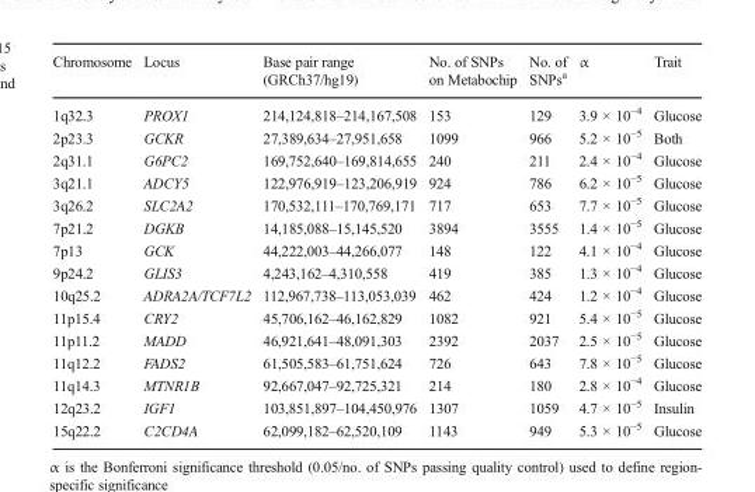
<table><thead><tr><td>Chromosome</td><td>Locus</td><td>Base pair range (GRCh37/hg19)</td><td>No. of SNPs on Metabochip</td><td>No. of SNPs<sup>a</sup></td><td>α</td><td>Trait</td></tr></thead><tbody><tr><td>1q32.3</td><td>PROX1</td><td>214,124,818–214,167,508</td><td>153</td><td>129</td><td>3.9 × 10<sup>−4</sup></td><td>Glucose</td></tr><tr><td>2p23.3</td><td>GCKR</td><td>27,389,634–27,951,658</td><td>1099</td><td>966</td><td>5.2 × 10<sup>−5</sup></td><td>Both</td></tr><tr><td>2q31.1</td><td>G6PC2</td><td>169,752,640–169,814,655</td><td>240</td><td>211</td><td>2.4 × 10<sup>−4</sup></td><td>Glucose</td></tr><tr><td>3q21.1</td><td>ADCY5</td><td>122,976,919–123,206,919</td><td>924</td><td>786</td><td>6.2 × 10<sup>−5</sup></td><td>Glucose</td></tr><tr><td>3q26.2</td><td>SLC2A2</td><td>170,532,111–170,769,171</td><td>717</td><td>653</td><td>7.7 × 10<sup>−5</sup></td><td>Glucose</td></tr><tr><td>7p21.2</td><td>DGKB</td><td>14,185,088–15,145,520</td><td>3894</td><td>3555</td><td>1.4 × 10<sup>−5</sup></td><td>Glucose</td></tr><tr><td>7p13</td><td>GCK</td><td>44,222,003–44,266,077</td><td>148</td><td>122</td><td>4.1 × 10<sup>−4</sup></td><td>Glucose</td></tr><tr><td>9p24.2</td><td>GLIS3</td><td>4,243,162–4,310,558</td><td>419</td><td>385</td><td>1.3 × 10<sup>−4</sup></td><td>Glucose</td></tr><tr><td>10q25.2</td><td>ADRA2A/TCF7L2</td><td>112,967,738–113,053,039</td><td>462</td><td>424</td><td>1.2 × 10<sup>−4</sup></td><td>Glucose</td></tr><tr><td>11p15.4</td><td>CRY2</td><td>45,706,162–46,162,829</td><td>1082</td><td>921</td><td>5.4 × 10<sup>−5</sup></td><td>Glucose</td></tr><tr><td>11p11.2</td><td>MADD</td><td>46,921,641–48,091,303</td><td>2392</td><td>2037</td><td>2.5 × 10<sup>−5</sup></td><td>Glucose</td></tr><tr><td>11q12.2</td><td>FADS2</td><td>61,505,583–61,751,624</td><td>726</td><td>643</td><td>7.8 × 10<sup>−5</sup></td><td>Glucose</td></tr><tr><td>11q14.3</td><td>MTNR1B</td><td>92,667,047–92,725,321</td><td>214</td><td>180</td><td>2.8 × 10<sup>−4</sup></td><td>Glucose</td></tr><tr><td>12q23.2</td><td>IGF1</td><td>103,851,897–104,450,976</td><td>1307</td><td>1059</td><td>4.7 × 10<sup>−5</sup></td><td>Insulin</td></tr><tr><td>15q22.2</td><td>C2CD4A</td><td>62,099,182–62,520,109</td><td>1143</td><td>949</td><td>5.3 × 10<sup>−5</sup></td><td>Glucose</td></tr></tbody></table>